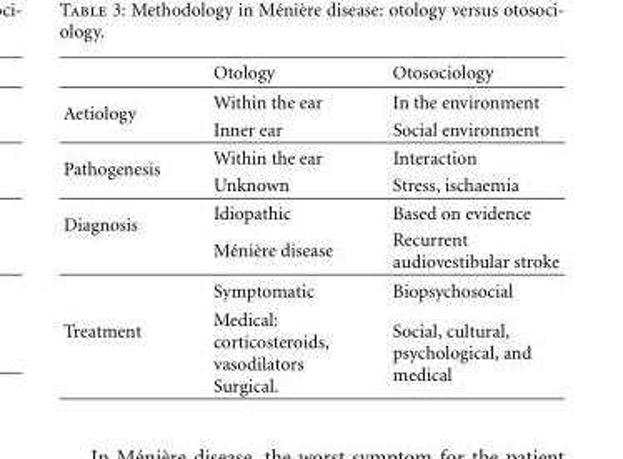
<table><thead><tr><td></td><td>Otology</td><td>Otosociology</td></tr></thead><tbody><tr><td rowspan="2">Aetiology</td><td>Within the ear</td><td>In the environment</td></tr><tr><td>Inner ear</td><td>Social environment</td></tr><tr><td rowspan="2">Pathogenesis</td><td>Within the ear</td><td>Interaction</td></tr><tr><td>Unknown</td><td>Stress, ischaemia</td></tr><tr><td rowspan="2">Diagnosis</td><td>Idiopathic</td><td>Based on evidence</td></tr><tr><td>M´eni`ere disease</td><td>Recurrent audiovestibular stroke</td></tr><tr><td rowspan="2">Treatment</td><td>Symptomatic</td><td>Biopsychosocial</td></tr><tr><td>Medical: corticosteroids, vasodilators Surgical.</td><td>Social, cultural, psychological, and medical</td></tr></tbody></table>